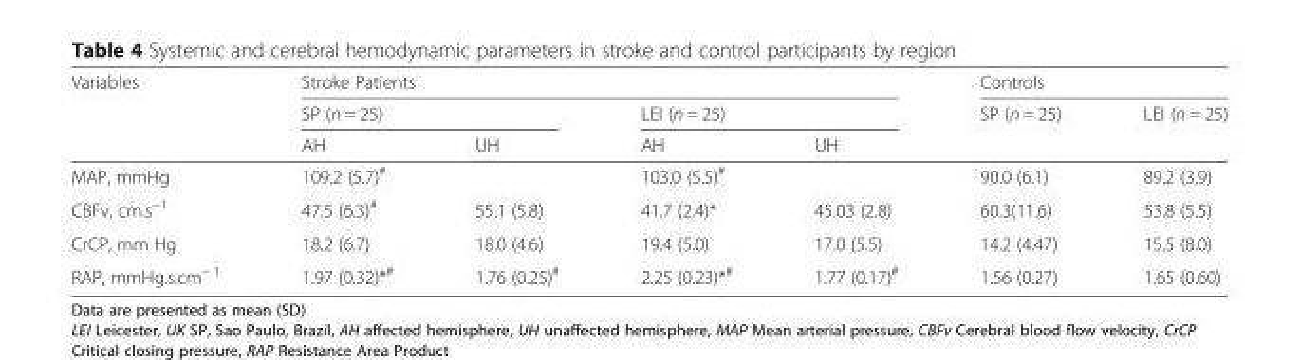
<table><thead><tr><td rowspan="3">Variables</td><td colspan="4">Stroke Patients</td><td colspan="2">Controls</td></tr><tr><td colspan="2">SP (n = 25)</td><td colspan="2">LEI (n = 25)</td><td rowspan="2">SP (n = 25)</td><td rowspan="2">LEI (n = 25)</td></tr><tr><td>AH</td><td>UH</td><td>AH</td><td>UH</td></tr></thead><tbody><tr><td>MAP, mmHg</td><td colspan="2">109.2 (5.7)<sup>#</sup></td><td colspan="2">103.0 (5.5)<sup>#</sup></td><td>90.0 (6.1)</td><td>89.2 (3.9)</td></tr><tr><td>CBFv, cm.s<sup>−1</sup></td><td>47.5 (6.3)<sup>#</sup></td><td>55.1 (5.8)</td><td>41.7 (2.4)*</td><td>45.03 (2.8)</td><td>60.3(11.6)</td><td>53.8 (5.5)</td></tr><tr><td>CrCP, mm Hg</td><td>18.2 (6.7)</td><td>18.0 (4.6)</td><td>19.4 (5.0)</td><td>17.0 (5.5)</td><td>14.2 (4.47)</td><td>15.5 (8.0)</td></tr><tr><td>RAP, mmHg.s.cm<sup>− 1</sup></td><td>1.97 (0.32)*<sup>#</sup></td><td>1.76 (0.25)<sup>#</sup></td><td>2.25 (0.23)*<sup>#</sup></td><td>1.77 (0.17)<sup>#</sup></td><td>1.56 (0.27)</td><td>1.65 (0.60)</td></tr></tbody></table>